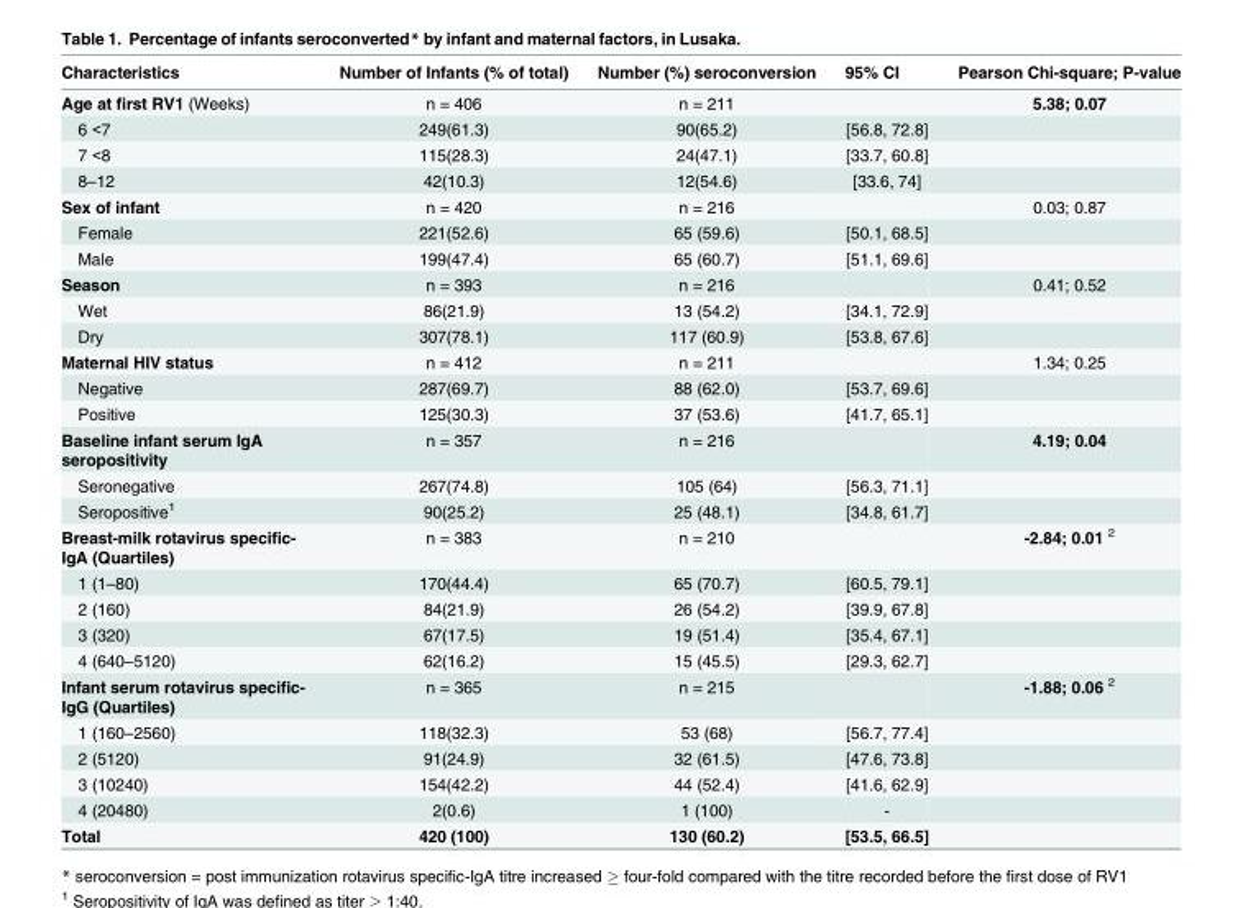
<table><thead><tr><td>Characteristics</td><td>Number of Infants (% of total)</td><td>Number (%) seroconversion</td><td>95% CI</td><td>Pearson Chi-square; P-value</td></tr></thead><tbody><tr><td>Age at first RV1 (Weeks)</td><td>n = 406</td><td>n = 211</td><td></td><td>5.38; 0.07</td></tr><tr><td>6 &lt;7</td><td>249(61.3)</td><td>90(65.2)</td><td>[56.8, 72.8]</td><td></td></tr><tr><td>7 &lt;8</td><td>115(28.3)</td><td>24(47.1)</td><td>[33.7, 60.8]</td><td></td></tr><tr><td>8–12</td><td>42(10.3)</td><td>12(54.6)</td><td>[33.6, 74]</td><td></td></tr><tr><td>Sex of infant</td><td>n = 420</td><td>n = 216</td><td></td><td>0.03; 0.87</td></tr><tr><td>Female</td><td>221(52.6)</td><td>65 (59.6)</td><td>[50.1, 68.5]</td><td></td></tr><tr><td>Male</td><td>199(47.4)</td><td>65 (60.7)</td><td>[51.1, 69.6]</td><td></td></tr><tr><td>Season</td><td>n = 393</td><td>n = 216</td><td></td><td>0.41; 0.52</td></tr><tr><td>Wet</td><td>86(21.9)</td><td>13 (54.2)</td><td>[34.1, 72.9]</td><td></td></tr><tr><td>Dry</td><td>307(78.1)</td><td>117 (60.9)</td><td>[53.8, 67.6]</td><td></td></tr><tr><td>Maternal HIV status</td><td>n = 412</td><td>n = 211</td><td></td><td>1.34; 0.25</td></tr><tr><td>Negative</td><td>287(69.7)</td><td>88 (62.0)</td><td>[53.7, 69.6]</td><td></td></tr><tr><td>Positive</td><td>125(30.3)</td><td>37 (53.6)</td><td>[41.7, 65.1]</td><td></td></tr><tr><td>Baseline infant serum IgA seropositivity</td><td>n = 357</td><td>n = 216</td><td></td><td>4.19; 0.04</td></tr><tr><td>Seronegative</td><td>267(74.8)</td><td>105 (64)</td><td>[56.3, 71.1]</td><td></td></tr><tr><td>Seropositive<sup>1</sup></td><td>90(25.2)</td><td>25 (48.1)</td><td>[34.8, 61.7]</td><td></td></tr><tr><td>Breast-milk rotavirus specific- IgA (Quartiles)</td><td>n = 383</td><td>n = 210</td><td></td><td>-2.84; 0.01 <sup>2</sup></td></tr><tr><td>1 (1–80)</td><td>170(44.4)</td><td>65 (70.7)</td><td>[60.5, 79.1]</td><td></td></tr><tr><td>2 (160)</td><td>84(21.9)</td><td>26 (54.2)</td><td>[39.9, 67.8]</td><td></td></tr><tr><td>3 (320)</td><td>67(17.5)</td><td>19 (51.4)</td><td>[35.4, 67.1]</td><td></td></tr><tr><td>4 (640–5120)</td><td>62(16.2)</td><td>15 (45.5)</td><td>[29.3, 62.7]</td><td></td></tr><tr><td>Infant serum rotavirus specific- IgG (Quartiles)</td><td>n = 365</td><td>n = 215</td><td></td><td>-1.88; 0.06 <sup>2</sup></td></tr><tr><td>1 (160–2560)</td><td>118(32.3)</td><td>53 (68)</td><td>[56.7, 77.4]</td><td></td></tr><tr><td>2 (5120)</td><td>91(24.9)</td><td>32 (61.5)</td><td>[47.6, 73.8]</td><td></td></tr><tr><td>3 (10240)</td><td>154(42.2)</td><td>44 (52.4)</td><td>[41.6, 62.9]</td><td></td></tr><tr><td>4 (20480)</td><td>2(0.6)</td><td>1 (100)</td><td>-</td><td></td></tr><tr><td>Total</td><td>420 (100)</td><td>130 (60.2)</td><td>[53.5, 66.5]</td><td></td></tr></tbody></table>